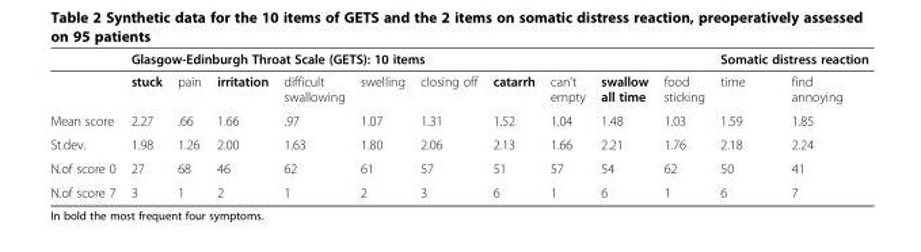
<table><thead><tr><td rowspan="2"></td><td colspan="10">Glasgow-Edinburgh Throat Scale (GETS): 10 items</td><td colspan="2">Somatic distress reaction</td></tr><tr><td>stuck</td><td>pain</td><td>irritation</td><td>difficult swallowing</td><td>swelling</td><td>closing off</td><td>catarrh</td><td>can’t empty</td><td>swallow all time</td><td>food sticking</td><td>time</td><td>find annoying</td></tr></thead><tbody><tr><td>Mean score</td><td>2.27</td><td>.66</td><td>1.66</td><td>.97</td><td>1.07</td><td>1.31</td><td>1.52</td><td>1.04</td><td>1.48</td><td>1.03</td><td>1.59</td><td>1.85</td></tr><tr><td>St.dev.</td><td>1.98</td><td>1.26</td><td>2.00</td><td>1.63</td><td>1.80</td><td>2.06</td><td>2.13</td><td>1.66</td><td>2.21</td><td>1.76</td><td>2.18</td><td>2.24</td></tr><tr><td>N.of score 0</td><td>27</td><td>68</td><td>46</td><td>62</td><td>61</td><td>57</td><td>51</td><td>57</td><td>54</td><td>62</td><td>50</td><td>41</td></tr><tr><td>N.of score 7</td><td>3</td><td>1</td><td>2</td><td>1</td><td>2</td><td>3</td><td>6</td><td>1</td><td>6</td><td>1</td><td>6</td><td>7</td></tr></tbody></table>